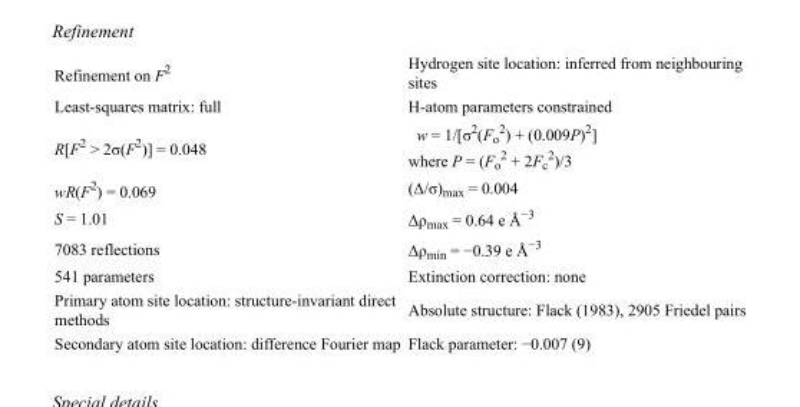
<table><tbody><tr><td>Refinement on F<sup>2</sup></td><td>Hydrogen site location: inferred from neighbouring sites</td></tr><tr><td>Least-squares matrix: full</td><td>H-atom parameters constrained</td></tr><tr><td>R[F<sup>2</sup> &gt; 2σ(F<sup>2</sup>)] = 0.048</td><td>w = 1/[σ<sup>2</sup>(F<sub>o</sub> <sup>2</sup>) + (0.009P)<sup>2</sup>] where P = (F<sub>o</sub> <sup>2</sup> + 2F<sub>c</sub> <sup>2</sup>)/3</td></tr><tr><td>wR(F<sup>2</sup>) = 0.069</td><td>(Δ/σ)<sub>max</sub> = 0.004</td></tr><tr><td>S = 1.01</td><td>Δρ<sub>max</sub> = 0.64 e Å<sup>−3</sup></td></tr><tr><td>7083 reflections</td><td>Δρ<sub>min</sub> = −0.39 e Å<sup>−3</sup></td></tr><tr><td>541 parameters</td><td>Extinction correction: none</td></tr><tr><td>Primary atom site location: structure-invariant direct methods</td><td>Absolute structure: Flack (1983), 2905 Friedel pairs</td></tr><tr><td>Secondary atom site location: difference Fourier map</td><td>Flack parameter: −0.007 (9)</td></tr></tbody></table>